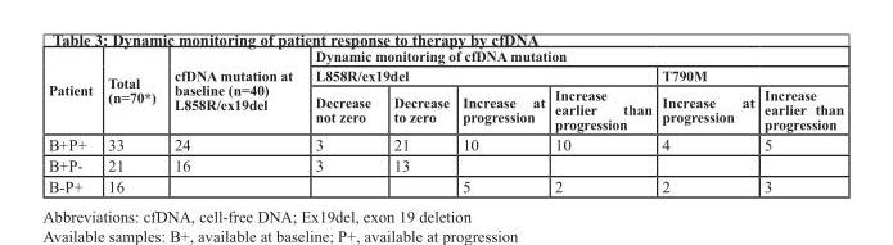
<table><thead><tr><td rowspan="3">Patient</td><td rowspan="3">Total (n=70*)</td><td rowspan="3">cfDNA mutation at baseline (n=40) L858R/ex19del</td><td colspan="6">Dynamic monitoring of cfDNA mutation</td></tr><tr><td colspan="4">L858R/ex19del</td><td colspan="2">T790M</td></tr><tr><td>Decrease not zero</td><td>Decrease to zero</td><td>Increase at progression</td><td>Increase earlier than progression</td><td>Increase at progression</td><td>Increase earlier than progression</td></tr></thead><tbody><tr><td>B+P+</td><td>33</td><td>24</td><td>3</td><td>21</td><td>10</td><td>10</td><td>4</td><td>5</td></tr><tr><td>B+P-</td><td>21</td><td>16</td><td>3</td><td>13</td><td></td><td></td><td></td><td></td></tr><tr><td>B-P+</td><td>16</td><td></td><td></td><td></td><td>5</td><td>2</td><td>2</td><td>3</td></tr></tbody></table>